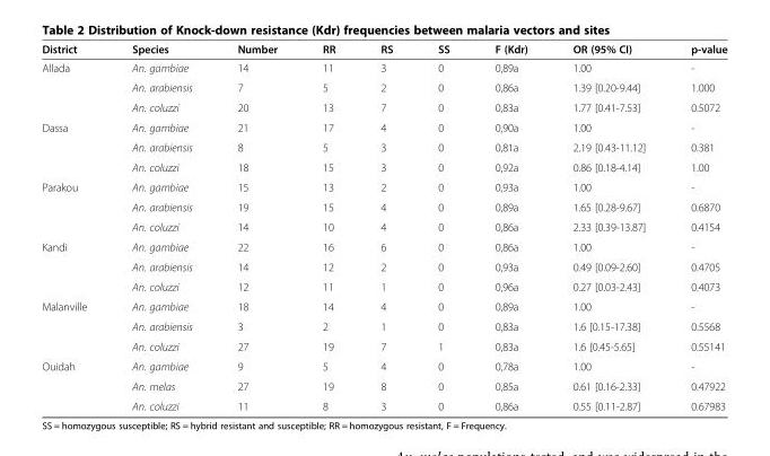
<table><thead><tr><td>District</td><td>Species</td><td>Number</td><td>RR</td><td>RS</td><td>SS</td><td>F (Kdr)</td><td>OR (95% CI)</td><td>p-value</td></tr></thead><tbody><tr><td rowspan="3">Allada</td><td>An. gambiae</td><td>14</td><td>11</td><td>3</td><td>0</td><td>0,89a</td><td>1.00</td><td>-</td></tr><tr><td>An. arabiensis</td><td>7</td><td>5</td><td>2</td><td>0</td><td>0,86a</td><td>1.39 [0.20-9.44]</td><td>1.000</td></tr><tr><td>An. coluzzi</td><td>20</td><td>13</td><td>7</td><td>0</td><td>0,83a</td><td>1.77 [0.41-7.53]</td><td>0.5072</td></tr><tr><td rowspan="3">Dassa</td><td>An. gambiae</td><td>21</td><td>17</td><td>4</td><td>0</td><td>0,90a</td><td>1.00</td><td>-</td></tr><tr><td>An. arabiensis</td><td>8</td><td>5</td><td>3</td><td>0</td><td>0,81a</td><td>2.19 [0.43-11.12]</td><td>0.381</td></tr><tr><td>An. coluzzi</td><td>18</td><td>15</td><td>3</td><td>0</td><td>0,92a</td><td>0.86 [0.18-4.14]</td><td>1.00</td></tr><tr><td rowspan="3">Parakou</td><td>An. gambiae</td><td>15</td><td>13</td><td>2</td><td>0</td><td>0,93a</td><td>1.00</td><td>-</td></tr><tr><td>An. arabiensis</td><td>19</td><td>15</td><td>4</td><td>0</td><td>0,89a</td><td>1.65 [0.28-9.67]</td><td>0.6870</td></tr><tr><td>An. coluzzi</td><td>14</td><td>10</td><td>4</td><td>0</td><td>0,86a</td><td>2.33 [0.39-13.87]</td><td>0.4154</td></tr><tr><td rowspan="3">Kandi</td><td>An. gambiae</td><td>22</td><td>16</td><td>6</td><td>0</td><td>0,86a</td><td>1.00</td><td>-</td></tr><tr><td>An. arabiensis</td><td>14</td><td>12</td><td>2</td><td>0</td><td>0,93a</td><td>0.49 [0.09-2.60]</td><td>0.4705</td></tr><tr><td>An. coluzzi</td><td>12</td><td>11</td><td>1</td><td>0</td><td>0,96a</td><td>0.27 [0.03-2.43]</td><td>0.4073</td></tr><tr><td rowspan="3">Malanville</td><td>An. gambiae</td><td>18</td><td>14</td><td>4</td><td>0</td><td>0,89a</td><td>1.00</td><td>-</td></tr><tr><td>An. arabiensis</td><td>3</td><td>2</td><td>1</td><td>0</td><td>0,83a</td><td>1.6 [0.15-17.38]</td><td>0.5568</td></tr><tr><td>An. coluzzi</td><td>27</td><td>19</td><td>7</td><td>1</td><td>0,83a</td><td>1.6 [0.45-5.65]</td><td>0.55141</td></tr><tr><td rowspan="3">Ouidah</td><td>An. gambiae</td><td>9</td><td>5</td><td>4</td><td>0</td><td>0,78a</td><td>1.00</td><td>-</td></tr><tr><td>An. melas</td><td>27</td><td>19</td><td>8</td><td>0</td><td>0,85a</td><td>0.61 [0.16-2.33]</td><td>0.47922</td></tr><tr><td>An. coluzzi</td><td>11</td><td>8</td><td>3</td><td>0</td><td>0,86a</td><td>0.55 [0.11-2.87]</td><td>0.67983</td></tr></tbody></table>